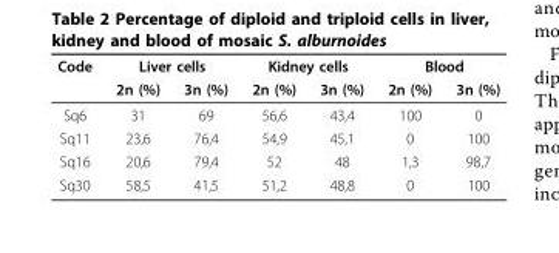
<table><thead><tr><td rowspan="2">Code</td><td colspan="2">Liver cells</td><td colspan="2">Kidney cells</td><td colspan="2">Blood</td></tr><tr><td>2n (%)</td><td>3n (%)</td><td>2n (%)</td><td>3n (%)</td><td>2n (%)</td><td>3n (%)</td></tr></thead><tbody><tr><td>Sq6</td><td>31</td><td>69</td><td>56,6</td><td>43,4</td><td>100</td><td>0</td></tr><tr><td>Sq11</td><td>23,6</td><td>76,4</td><td>54,9</td><td>45,1</td><td>0</td><td>100</td></tr><tr><td>Sq16</td><td>20,6</td><td>79,4</td><td>52</td><td>48</td><td>1,3</td><td>98,7</td></tr><tr><td>Sq30</td><td>58,5</td><td>41,5</td><td>51,2</td><td>48,8</td><td>0</td><td>100</td></tr></tbody></table>